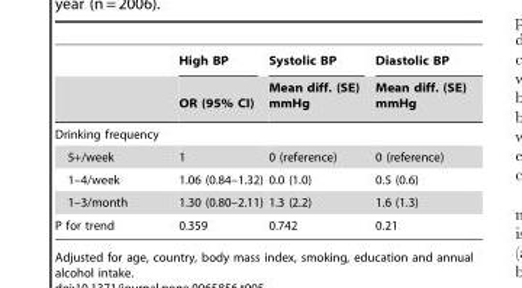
<table><thead><tr><td rowspan="2"></td><td rowspan="2">High BP OR (95% CI)</td><td rowspan="2">Systolic BP Mean diff. (SE) mmHg</td><td rowspan="2">Diastolic BP Mean diff. (SE) mmHg</td></tr><tr></tr></thead><tbody><tr><td colspan="4">Drinking frequency</td></tr><tr><td>5+/week</td><td>1</td><td>0 (reference)</td><td>0 (reference)</td></tr><tr><td>1–4/week</td><td>1.06 (0.84–1.32)</td><td>0.0 (1.0)</td><td>0.5 (0.6)</td></tr><tr><td>1–3/month</td><td>1.30 (0.80–2.11)</td><td>1.3 (2.2)</td><td>1.6 (1.3)</td></tr><tr><td>P for trend</td><td>0.359</td><td>0.742</td><td>0.21</td></tr></tbody></table>